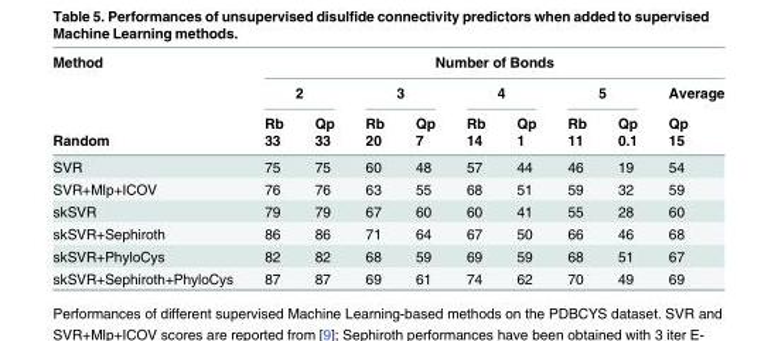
<table><thead><tr><td rowspan="4">Method Random</td><td colspan="9">Number of Bonds</td></tr><tr><td colspan="2">2</td><td colspan="2">3</td><td colspan="2">4</td><td colspan="2">5</td><td rowspan="3">Average Qp 15</td></tr><tr><td rowspan="2">Rb 33</td><td rowspan="2">Qp 33</td><td rowspan="2">Rb 20</td><td rowspan="2">Qp 7</td><td rowspan="2">Rb 14</td><td rowspan="2">Qp 1</td><td rowspan="2">Rb 11</td><td rowspan="2">Qp 0.1</td></tr><tr></tr></thead><tbody><tr><td>SVR</td><td>75</td><td>75</td><td>60</td><td>48</td><td>57</td><td>44</td><td>46</td><td>19</td><td>54</td></tr><tr><td>SVR+MIp+ICOV</td><td>76</td><td>76</td><td>63</td><td>55</td><td>68</td><td>51</td><td>59</td><td>32</td><td>59</td></tr><tr><td>skSVR</td><td>79</td><td>79</td><td>67</td><td>60</td><td>60</td><td>41</td><td>55</td><td>28</td><td>60</td></tr><tr><td>skSVR+Sephiroth</td><td>86</td><td>86</td><td>71</td><td>64</td><td>67</td><td>50</td><td>66</td><td>46</td><td>68</td></tr><tr><td>skSVR+PhyloCys</td><td>82</td><td>82</td><td>68</td><td>59</td><td>69</td><td>59</td><td>68</td><td>51</td><td>67</td></tr><tr><td>skSVR+Sephiroth+PhyloCys</td><td>87</td><td>87</td><td>69</td><td>61</td><td>74</td><td>62</td><td>70</td><td>49</td><td>69</td></tr></tbody></table>